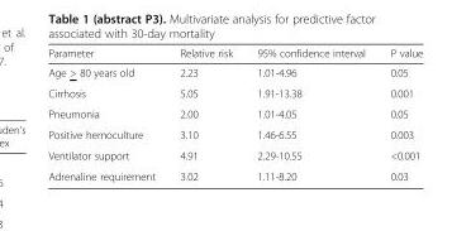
<table><thead><tr><td>Parameter</td><td>Relative risk</td><td>95% confidence interval</td><td>P value</td></tr></thead><tbody><tr><td>Age &gt; 80 years old</td><td>2.23</td><td>1.01-4.96</td><td>0.05</td></tr><tr><td>Cirrhosis</td><td>5.05</td><td>1.91-13.38</td><td>0.001</td></tr><tr><td>Pneumonia</td><td>2.00</td><td>1.01-4.05</td><td>0.05</td></tr><tr><td>Positive hemoculture</td><td>3.10</td><td>1.46-6.55</td><td>0.003</td></tr><tr><td>Ventilator support</td><td>4.91</td><td>2.29-10.55</td><td>&lt;0.001</td></tr><tr><td>Adrenaline requirement</td><td>3.02</td><td>1.11-8.20</td><td>0.03</td></tr></tbody></table>